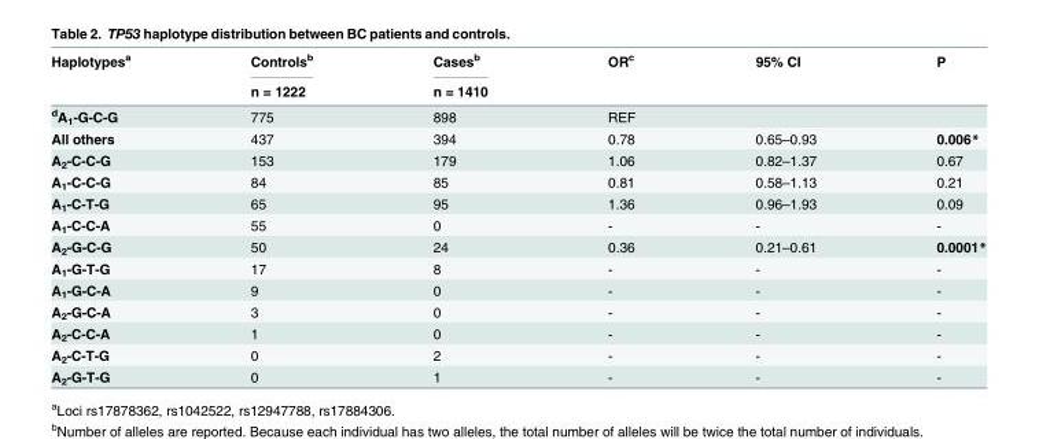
<table><thead><tr><td rowspan="2">Haplotypes<sup>a</sup></td><td rowspan="2">Controls<sup>b</sup> n = 1222</td><td rowspan="2">Cases<sup>b</sup> n = 1410</td><td rowspan="2">OR<sup>c</sup></td><td rowspan="2">95% CI</td><td rowspan="2">P</td></tr><tr></tr></thead><tbody><tr><td><sup>d</sup>A<sub>1</sub>-G-C-G</td><td>775</td><td>898</td><td>REF</td><td></td><td></td></tr><tr><td>All others</td><td>437</td><td>394</td><td>0.78</td><td>0.65–0.93</td><td>0.006*</td></tr><tr><td>A<sub>2</sub>-C-C-G</td><td>153</td><td>179</td><td>1.06</td><td>0.82–1.37</td><td>0.67</td></tr><tr><td>A<sub>1</sub>-C-C-G</td><td>84</td><td>85</td><td>0.81</td><td>0.58–1.13</td><td>0.21</td></tr><tr><td>A<sub>1</sub>-C-T-G</td><td>65</td><td>95</td><td>1.36</td><td>0.96–1.93</td><td>0.09</td></tr><tr><td>A<sub>1</sub>-C-C-A</td><td>55</td><td>0</td><td>-</td><td>-</td><td>-</td></tr><tr><td>A<sub>2</sub>-G-C-G</td><td>50</td><td>24</td><td>0.36</td><td>0.21–0.61</td><td>0.0001*</td></tr><tr><td>A<sub>1</sub>-G-T-G</td><td>17</td><td>8</td><td>-</td><td>-</td><td>-</td></tr><tr><td>A<sub>1</sub>-G-C-A</td><td>9</td><td>0</td><td>-</td><td>-</td><td>-</td></tr><tr><td>A<sub>2</sub>-G-C-A</td><td>3</td><td>0</td><td>-</td><td>-</td><td>-</td></tr><tr><td>A<sub>2</sub>-C-C-A</td><td>1</td><td>0</td><td>-</td><td>-</td><td>-</td></tr><tr><td>A<sub>2</sub>-C-T-G</td><td>0</td><td>2</td><td>-</td><td>-</td><td>-</td></tr><tr><td>A<sub>2</sub>-G-T-G</td><td>0</td><td>1</td><td>-</td><td>-</td><td>-</td></tr></tbody></table>